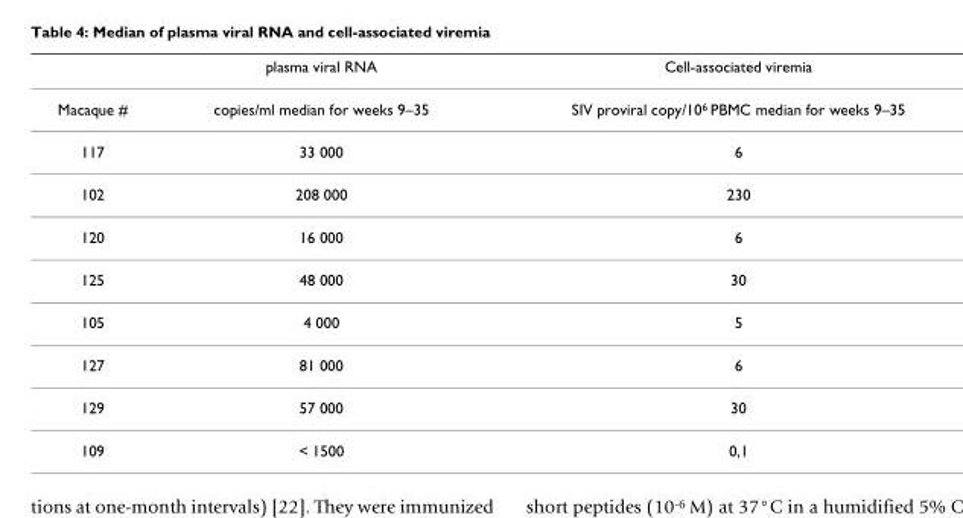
<table><thead><tr><td></td><td>plasma viral RNA</td><td>Cell-associated viremia</td></tr></thead><tbody><tr><td>Macaque #</td><td>copies/ml median for weeks 9–35</td><td>SIV proviral copy/106 PBMC median for weeks 9–35</td></tr><tr><td>117</td><td>33 000</td><td>6</td></tr><tr><td>102</td><td>208 000</td><td>230</td></tr><tr><td>120</td><td>16 000</td><td>6</td></tr><tr><td>125</td><td>48 000</td><td>30</td></tr><tr><td>105</td><td>4 000</td><td>5</td></tr><tr><td>127</td><td>81 000</td><td>6</td></tr><tr><td>129</td><td>57 000</td><td>30</td></tr><tr><td>109</td><td>&lt; 1500</td><td>0,1</td></tr></tbody></table>